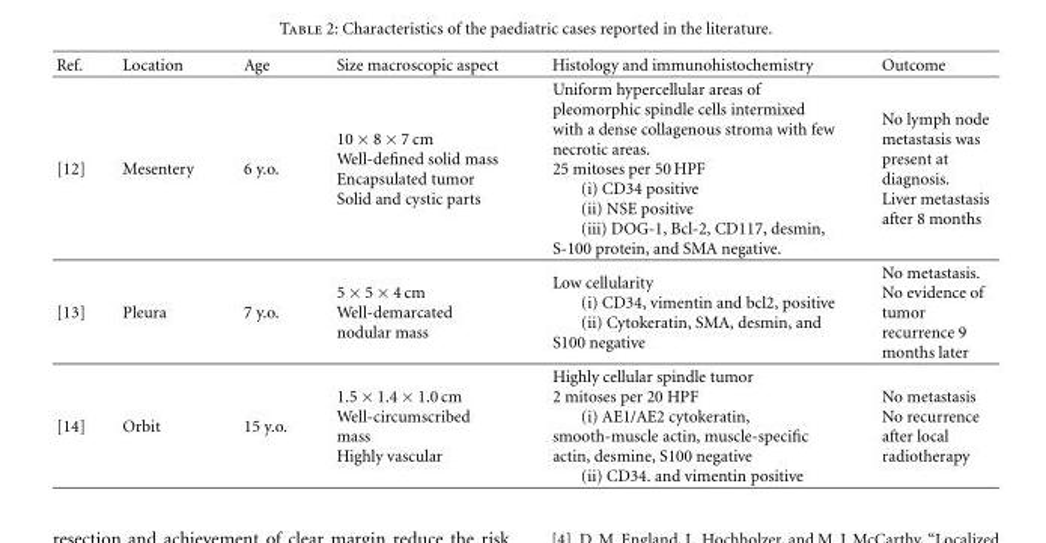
<table><thead><tr><td>Ref.</td><td>Location</td><td>Age</td><td>Size macroscopic aspect</td><td>Histology and immunohistochemistry</td><td>Outcome</td></tr></thead><tbody><tr><td>[12]</td><td>Mesentery</td><td>6 y.o.</td><td>10 × 8 × 7 cm Well-defined solid mass Encapsulated tumor Solid and cystic parts</td><td>Uniform hypercellular areas of pleomorphic spindle cells intermixed with a dense collagenous stroma with few necrotic areas. 25 mitoses per 50 HPF (i) CD34 positive (ii) NSE positive (iii) DOG-1, Bcl-2, CD117, desmin, S-100 protein, and SMA negative.</td><td>No lymph node metastasis was present at diagnosis. Liver metastasis after 8 months</td></tr><tr><td>[13]</td><td>Pleura</td><td>7 y.o.</td><td>5 × 5 × 4 cm Well-demarcated nodular mass</td><td>Low cellularity (i) CD34, vimentin and bcl2, positive (ii) Cytokeratin, SMA, desmin, and S100 negative</td><td>No metastasis. No evidence of tumor recurrence 9 months later</td></tr><tr><td>[14]</td><td>Orbit</td><td>15 y.o.</td><td>1.5 × 1.4 × 1.0 cm Well-circumscribed mass Highly vascular</td><td>Highly cellular spindle tumor 2 mitoses per 20 HPF (i) AE1/AE2 cytokeratin, smooth-muscle actin, muscle-specific actin, desmine, S100 negative (ii) CD34. and vimentin positive</td><td>No metastasis No recurrence after local radiotherapy</td></tr></tbody></table>